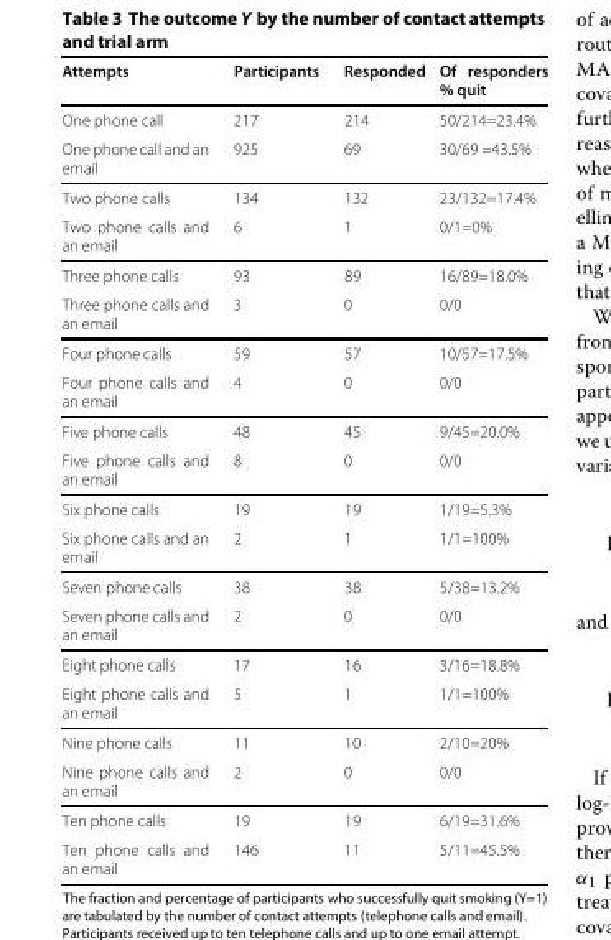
<table><thead><tr><td>Attempts</td><td>Participants</td><td>Responded</td><td>Of responders % quit</td></tr></thead><tbody><tr><td>One phone call</td><td>217</td><td>214</td><td>50/214=23.4%</td></tr><tr><td>One phone call and an email</td><td>925</td><td>69</td><td>30/69 =43.5%</td></tr><tr><td>Two phone calls</td><td>134</td><td>132</td><td>23/132=17.4%</td></tr><tr><td>Two phone calls and an email</td><td>6</td><td>1</td><td>0/1=0%</td></tr><tr><td>Three phone calls</td><td>93</td><td>89</td><td>16/89=18.0%</td></tr><tr><td>Three phone calls and an email</td><td>3</td><td>0</td><td>0/0</td></tr><tr><td>Four phone calls</td><td>59</td><td>57</td><td>10/57=17.5%</td></tr><tr><td>Four phone calls and an email</td><td>4</td><td>0</td><td>0/0</td></tr><tr><td>Five phone calls</td><td>48</td><td>45</td><td>9/45=20.0%</td></tr><tr><td>Five phone calls and an email</td><td>8</td><td>0</td><td>0/0</td></tr><tr><td>Six phone calls</td><td>19</td><td>19</td><td>1/19=5.3%</td></tr><tr><td>Six phone calls and an email</td><td>2</td><td>1</td><td>1/1=100%</td></tr><tr><td>Seven phone calls</td><td>38</td><td>38</td><td>5/38=13.2%</td></tr><tr><td>Seven phone calls and an email</td><td>2</td><td>0</td><td>0/0</td></tr><tr><td>Eight phone calls</td><td>17</td><td>16</td><td>3/16=18.8%</td></tr><tr><td>Eight phone calls and an email</td><td>5</td><td>1</td><td>1/1=100%</td></tr><tr><td>Nine phone calls</td><td>11</td><td>10</td><td>2/10=20%</td></tr><tr><td>Nine phone calls and an email</td><td>2</td><td>0</td><td>0/0</td></tr><tr><td>Ten phone calls</td><td>19</td><td>19</td><td>6/19=31.6%</td></tr><tr><td>Ten phone calls and an email</td><td>146</td><td>11</td><td>5/11=45.5%</td></tr></tbody></table>